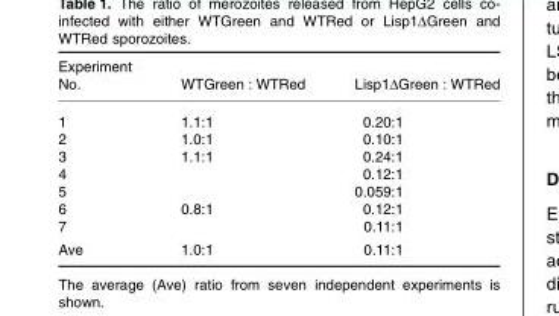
<table><thead><tr><td>Experiment No.</td><td>WTGreen : WTRed</td><td>Lisp1ΔGreen : WTRed</td></tr></thead><tbody><tr><td>1</td><td>1.1:1</td><td>0.20:1</td></tr><tr><td>2</td><td>1.0:1</td><td>0.10:1</td></tr><tr><td>3</td><td>1.1:1</td><td>0.24:1</td></tr><tr><td>4</td><td></td><td>0.12:1</td></tr><tr><td>5</td><td></td><td>0.059:1</td></tr><tr><td>6</td><td>0.8:1</td><td>0.12:1</td></tr><tr><td>7</td><td></td><td>0.11:1</td></tr><tr><td>Ave</td><td>1.0:1</td><td>0.11:1</td></tr></tbody></table>